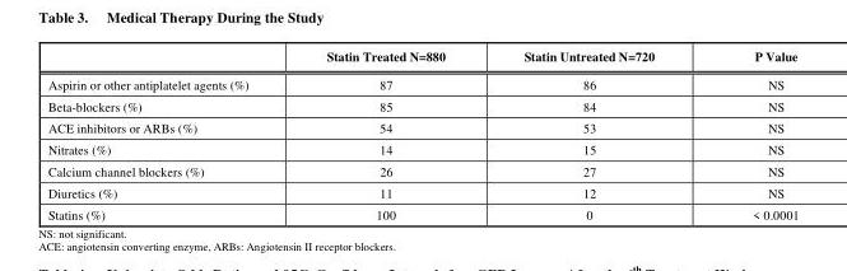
<table><thead><tr><td></td><td>Statin Treated N=880</td><td>Statin Untreated N=720</td><td>P Value</td></tr></thead><tbody><tr><td>Aspirin or other antiplatelet agents (%)</td><td>87</td><td>86</td><td>NS</td></tr><tr><td>Beta-blockers (%)</td><td>85</td><td>84</td><td>NS</td></tr><tr><td>ACE inhibitors or ARBs (%)</td><td>54</td><td>53</td><td>NS</td></tr><tr><td>Nitrates (%)</td><td>14</td><td>15</td><td>NS</td></tr><tr><td>Calcium channel blockers (%)</td><td>26</td><td>27</td><td>NS</td></tr><tr><td>Diuretics (%)</td><td>11</td><td>12</td><td>NS</td></tr><tr><td>Statins (%)</td><td>100</td><td>0</td><td>&lt; 0.0001</td></tr></tbody></table>